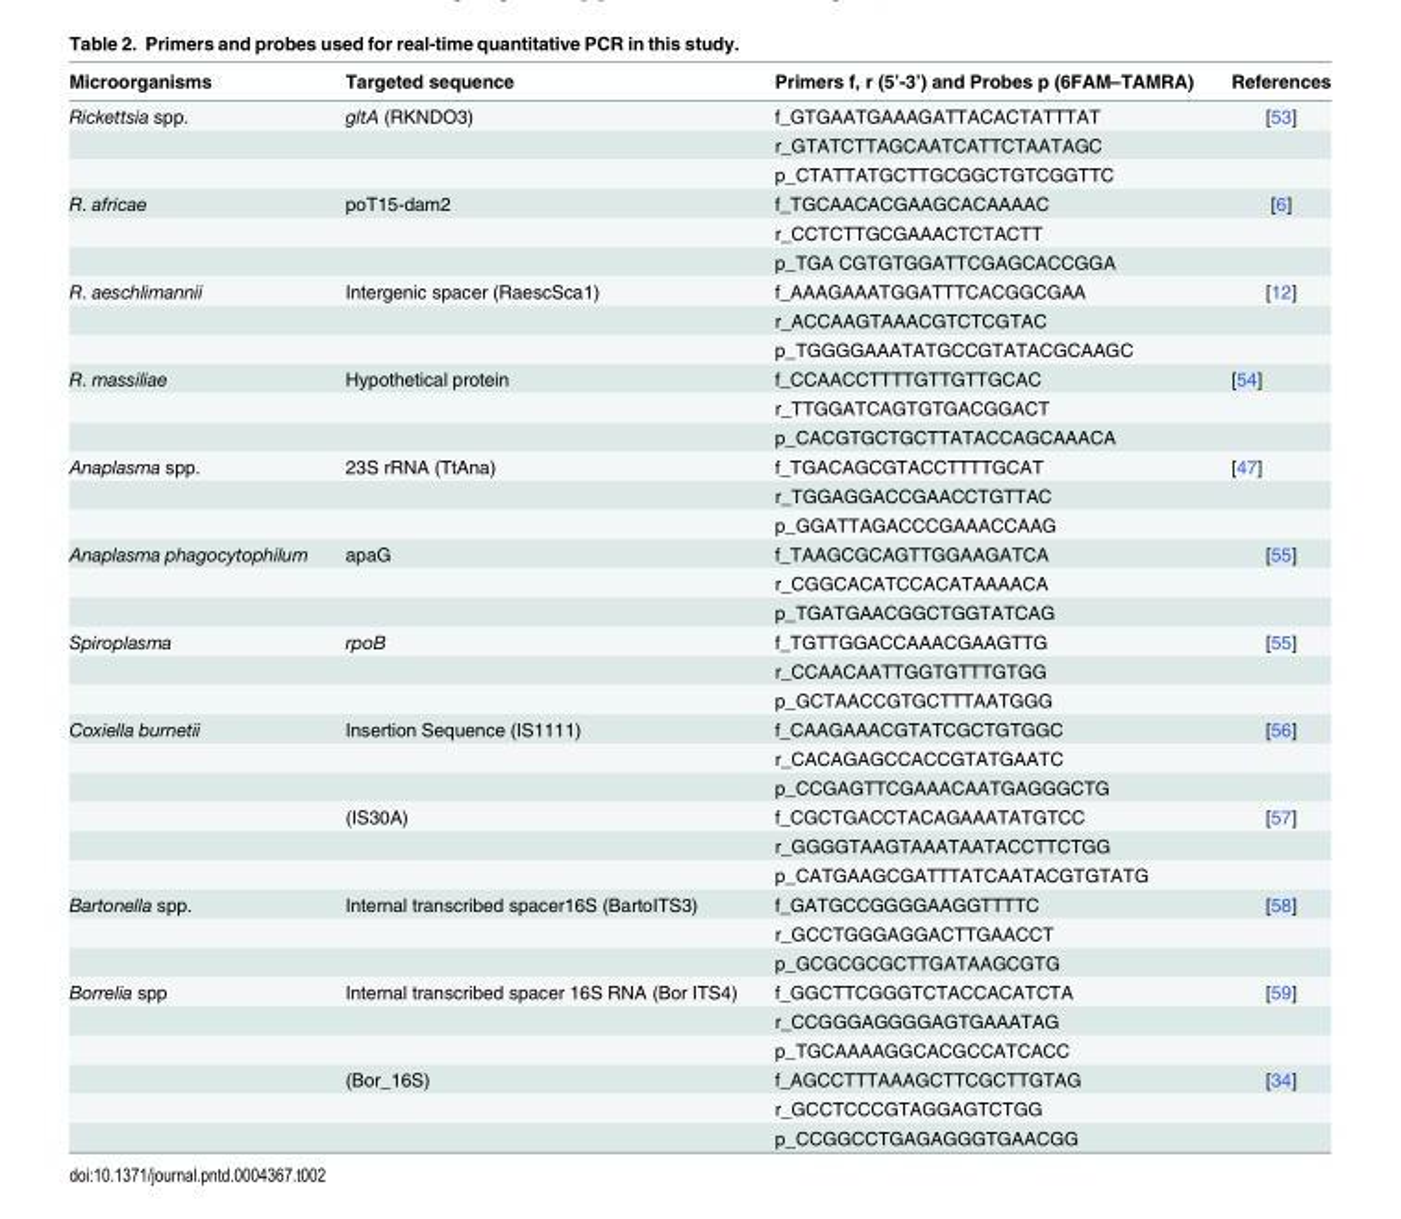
<table><thead><tr><td>Microorganisms</td><td>Targeted sequence</td><td>Primers f, r (5’-3’) and Probes p (6FAM–TAMRA)</td><td>References</td></tr></thead><tbody><tr><td rowspan="3">Rickettsia spp.</td><td>gltA (RKNDO3)</td><td>f_GTGAATGAAAGATTACACTATTTAT</td><td>[53]</td></tr><tr><td></td><td>r_GTATCTTAGCAATCATTCTAATAGC</td><td></td></tr><tr><td></td><td>p_CTATTATGCTTGCGGCTGTCGGTTC</td><td></td></tr><tr><td rowspan="3">R. africae</td><td>poT15-dam2</td><td>f_TGCAACACGAAGCACAAAAC</td><td>[6]</td></tr><tr><td></td><td>r_CCTCTTGCGAAACTCTACTT</td><td></td></tr><tr><td></td><td>p_TGA CGTGTGGATTCGAGCACCGGA</td><td></td></tr><tr><td rowspan="3">R. aeschlimannii</td><td>Intergenic spacer (RaescSca1)</td><td>f_AAAGAAATGGATTTCACGGCGAA</td><td>[12]</td></tr><tr><td></td><td>r_ACCAAGTAAACGTCTCGTAC</td><td></td></tr><tr><td></td><td>p_TGGGGAAATATGCCGTATACGCAAGC</td><td></td></tr><tr><td rowspan="3">R. massiliae</td><td>Hypothetical protein</td><td>f_CCAACCTTTTGTTGTTGCAC</td><td>[54]</td></tr><tr><td></td><td>r_TTGGATCAGTGTGACGGACT</td><td></td></tr><tr><td></td><td>p_CACGTGCTGCTTATACCAGCAAACA</td><td></td></tr><tr><td rowspan="3">Anaplasma spp.</td><td>23S rRNA (TtAna)</td><td>f_TGACAGCGTACCTTTTGCAT</td><td>[47]</td></tr><tr><td></td><td>r_TGGAGGACCGAACCTGTTAC</td><td></td></tr><tr><td></td><td>p_GGATTAGACCCGAAACCAAG</td><td></td></tr><tr><td rowspan="3">Anaplasma phagocytophilum</td><td>apaG</td><td>f_TAAGCGCAGTTGGAAGATCA</td><td>[55]</td></tr><tr><td></td><td>r_CGGCACATCCACATAAAACA</td><td></td></tr><tr><td></td><td>p_TGATGAACGGCTGGTATCAG</td><td></td></tr><tr><td rowspan="3">Spiroplasma</td><td>rpoB</td><td>f_TGTTGGACCAAACGAAGTTG</td><td>[55]</td></tr><tr><td></td><td>r_CCAACAATTGGTGTTTGTGG</td><td></td></tr><tr><td></td><td>p_GCTAACCGTGCTTTAATGGG</td><td></td></tr><tr><td rowspan="6">Coxiella burnetii</td><td>Insertion Sequence (IS1111)</td><td>f_CAAGAAACGTATCGCTGTGGC</td><td>[56]</td></tr><tr><td></td><td>r_CACAGAGCCACCGTATGAATC</td><td></td></tr><tr><td></td><td>p_CCGAGTTCGAAACAATGAGGGCTG</td><td></td></tr><tr><td>(IS30A)</td><td>f_CGCTGACCTACAGAAATATGTCC</td><td>[57]</td></tr><tr><td></td><td>r_GGGGTAAGTAAATAATACCTTCTGG</td><td></td></tr><tr><td></td><td>p_CATGAAGCGATTTATCAATACGTGTATG</td><td></td></tr><tr><td rowspan="3">Bartonella spp.</td><td>Internal transcribed spacer16S (BartoITS3)</td><td>f_GATGCCGGGGAAGGTTTTC</td><td>[58]</td></tr><tr><td></td><td>r_GCCTGGGAGGACTTGAACCT</td><td></td></tr><tr><td></td><td>p_GCGCGCGCTTGATAAGCGTG</td><td></td></tr><tr><td rowspan="6">Borrelia spp</td><td>Internal transcribed spacer 16S RNA (Bor ITS4)</td><td>f_GGCTTCGGGTCTACCACATCTA</td><td>[59]</td></tr><tr><td></td><td>r_CCGGGAGGGGAGTGAAATAG</td><td></td></tr><tr><td></td><td>p_TGCAAAAGGCACGCCATCACC</td><td></td></tr><tr><td>(Bor_16S)</td><td>f_AGCCTTTAAAGCTTCGCTTGTAG</td><td>[34]</td></tr><tr><td></td><td>r_GCCTCCCGTAGGAGTCTGG</td><td></td></tr><tr><td></td><td>p_CCGGCCTGAGAGGGTGAACGG</td><td></td></tr></tbody></table>